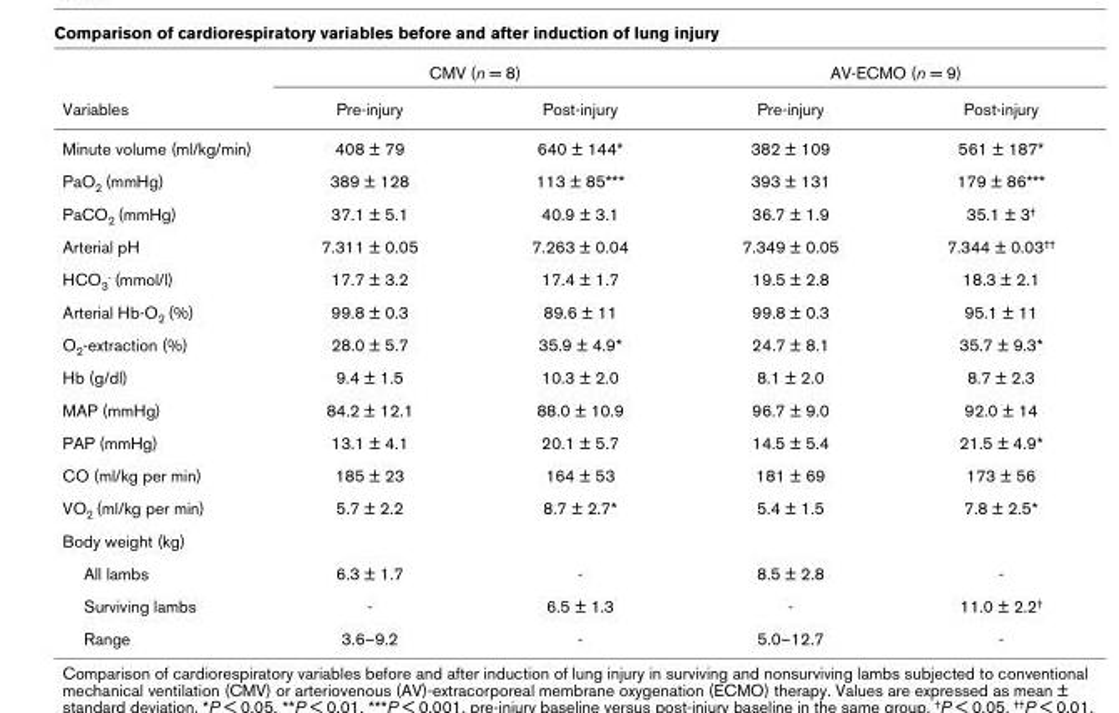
<table><thead><tr><td rowspan="2">Variables</td><td colspan="2">CMV (n = 8)</td><td colspan="2">AV-ECMO (n = 9)</td></tr><tr><td>Pre-injury</td><td>Post-injury</td><td>Pre-injury</td><td>Post-injury</td></tr></thead><tbody><tr><td>Minute volume (ml/kg/min)</td><td>408 ± 79</td><td>640 ± 144*</td><td>382 ± 109</td><td>561 ± 187*</td></tr><tr><td>PaO2 (mmHg)</td><td>389 ± 128</td><td>113 ± 85***</td><td>393 ± 131</td><td>179 ± 86***</td></tr><tr><td>PaCO2 (mmHg)</td><td>37.1 ± 5.1</td><td>40.9 ± 3.1</td><td>36.7 ± 1.9</td><td>35.1 ± 3†</td></tr><tr><td>Arterial pH</td><td>7.311 ± 0.05</td><td>7.263 ± 0.04</td><td>7.349 ± 0.05</td><td>7.344 ± 0.03††</td></tr><tr><td>HCO3- (mmol/l)</td><td>17.7 ± 3.2</td><td>17.4 ± 1.7</td><td>19.5 ± 2.8</td><td>18.3 ± 2.1</td></tr><tr><td>Arterial Hb-O2 (%)</td><td>99.8 ± 0.3</td><td>89.6 ± 11</td><td>99.8 ± 0.3</td><td>95.1 ± 11</td></tr><tr><td>O2-extraction (%)</td><td>28.0 ± 5.7</td><td>35.9 ± 4.9*</td><td>24.7 ± 8.1</td><td>35.7 ± 9.3*</td></tr><tr><td>Hb (g/dl)</td><td>9.4 ± 1.5</td><td>10.3 ± 2.0</td><td>8.1 ± 2.0</td><td>8.7 ± 2.3</td></tr><tr><td>MAP (mmHg)</td><td>84.2 ± 12.1</td><td>88.0 ± 10.9</td><td>96.7 ± 9.0</td><td>92.0 ± 14</td></tr><tr><td>PAP (mmHg)</td><td>13.1 ± 4.1</td><td>20.1 ± 5.7</td><td>14.5 ± 5.4</td><td>21.5 ± 4.9*</td></tr><tr><td>CO (ml/kg per min)</td><td>185 ± 23</td><td>164 ± 53</td><td>181 ± 69</td><td>173 ± 56</td></tr><tr><td>VO2 (ml/kg per min)</td><td>5.7 ± 2.2</td><td>8.7 ± 2.7*</td><td>5.4 ± 1.5</td><td>7.8 ± 2.5*</td></tr><tr><td colspan="5">Body weight (kg)</td></tr><tr><td>All lambs</td><td>6.3 ± 1.7</td><td>-</td><td>8.5 ± 2.8</td><td>-</td></tr><tr><td>Surviving lambs</td><td>-</td><td>6.5 ± 1.3</td><td>-</td><td>11.0 ± 2.2†</td></tr><tr><td>Range</td><td>3.6–9.2</td><td>-</td><td>5.0–12.7</td><td>-</td></tr></tbody></table>